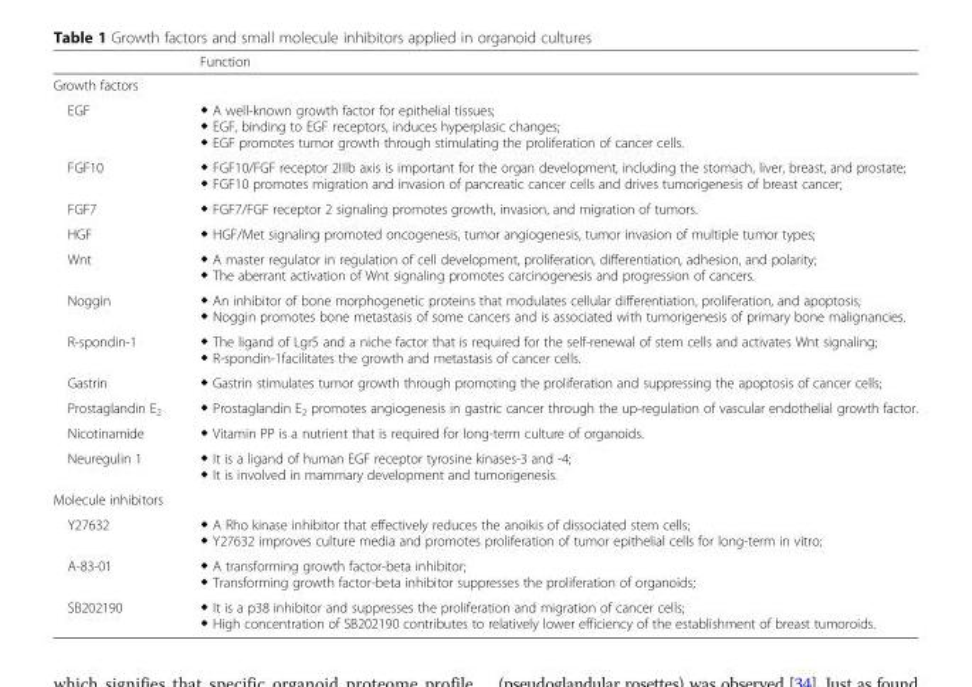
<table><thead><tr><td></td><td>Function</td></tr></thead><tbody><tr><td colspan="2">Growth factors</td></tr><tr><td>EGF</td><td>◆ A well-known growth factor for epithelial tissues; ◆ EGF, binding to EGF receptors, induces hyperplasic changes; ◆ EGF promotes tumor growth through stimulating the proliferation of cancer cells.</td></tr><tr><td>FGF10</td><td>◆ FGF10/FGF receptor 2IIIb axis is important for the organ development, including the stomach, liver, breast, and prostate; ◆ FGF10 promotes migration and invasion of pancreatic cancer cells and drives tumorigenesis of breast cancer;</td></tr><tr><td>FGF7</td><td>◆ FGF7/FGF receptor 2 signaling promotes growth, invasion, and migration of tumors.</td></tr><tr><td>HGF</td><td>◆ HGF/Met signaling promoted oncogenesis, tumor angiogenesis, tumor invasion of multiple tumor types;</td></tr><tr><td>Wnt</td><td>◆ A master regulator in regulation of cell development, proliferation, differentiation, adhesion, and polarity; ◆ The aberrant activation of Wnt signaling promotes carcinogenesis and progression of cancers.</td></tr><tr><td>Noggin</td><td>◆ An inhibitor of bone morphogenetic proteins that modulates cellular differentiation, proliferation, and apoptosis; ◆ Noggin promotes bone metastasis of some cancers and is associated with tumorigenesis of primary bone malignancies.</td></tr><tr><td>R-spondin-1</td><td>◆ The ligand of Lgr5 and a niche factor that is required for the self-renewal of stem cells and activates Wnt signaling; ◆ R-spondin-1facilitates the growth and metastasis of cancer cells.</td></tr><tr><td>Gastrin</td><td>◆ Gastrin stimulates tumor growth through promoting the proliferation and suppressing the apoptosis of cancer cells;</td></tr><tr><td>Prostaglandin E<sub>2</sub></td><td>◆ Prostaglandin E<sub>2</sub> promotes angiogenesis in gastric cancer through the up-regulation of vascular endothelial growth factor.</td></tr><tr><td>Nicotinamide</td><td>◆ Vitamin PP is a nutrient that is required for long-term culture of organoids.</td></tr><tr><td>Neuregulin 1</td><td>◆ It is a ligand of human EGF receptor tyrosine kinases-3 and -4; ◆ It is involved in mammary development and tumorigenesis.</td></tr><tr><td colspan="2">Molecule inhibitors</td></tr><tr><td>Y27632</td><td>◆ A Rho kinase inhibitor that effectively reduces the anoikis of dissociated stem cells; ◆ Y27632 improves culture media and promotes proliferation of tumor epithelial cells for long-term in vitro;</td></tr><tr><td>A-83-01</td><td>◆ A transforming growth factor-beta inhibitor; ◆ Transforming growth factor-beta inhibitor suppresses the proliferation of organoids;</td></tr><tr><td>SB202190</td><td>◆ It is a p38 inhibitor and suppresses the proliferation and migration of cancer cells; ◆ High concentration of SB202190 contributes to relatively lower efficiency of the establishment of breast tumoroids.</td></tr></tbody></table>